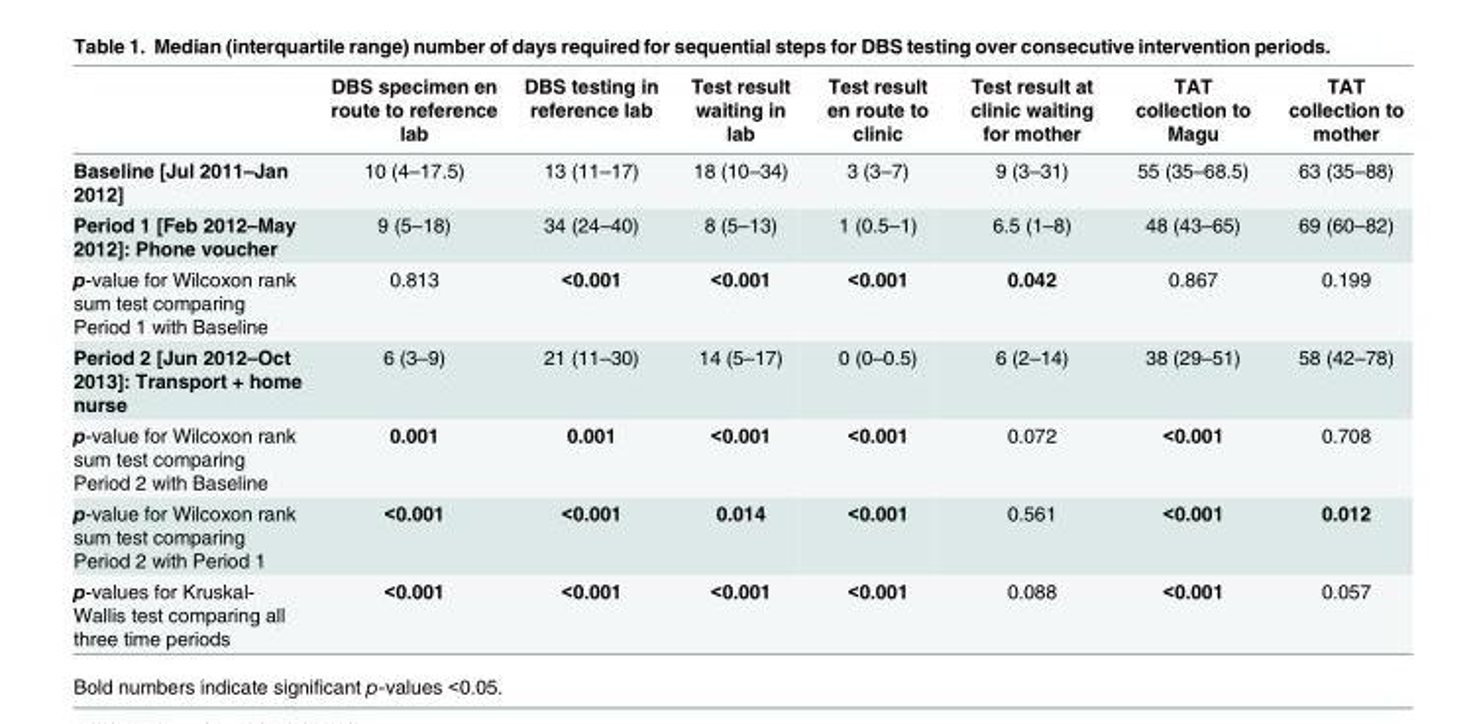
<table><thead><tr><td></td><td>DBS specimen en route to reference lab</td><td>DBS testing in reference lab</td><td>Test result waiting in lab</td><td>Test result en route to clinic</td><td>Test result at clinic waiting for mother</td><td>TAT collection to Magu</td><td>TAT collection to mother</td></tr></thead><tbody><tr><td>Baseline [Jul 2011–Jan 2012]</td><td>10 (4–17.5)</td><td>13 (11–17)</td><td>18 (10–34)</td><td>3 (3–7)</td><td>9 (3–31)</td><td>55 (35–68.5)</td><td>63 (35–88)</td></tr><tr><td>Period 1 [Feb 2012–May 2012]: Phone voucher</td><td>9 (5–18)</td><td>34 (24–40)</td><td>8 (5–13)</td><td>1 (0.5–1)</td><td>6.5 (1–8)</td><td>48 (43–65)</td><td>69 (60–82)</td></tr><tr><td>p-value for Wilcoxon rank sum test comparing Period 1 with Baseline</td><td>0.813</td><td>&lt;0.001</td><td>&lt;0.001</td><td>&lt;0.001</td><td>0.042</td><td>0.867</td><td>0.199</td></tr><tr><td>Period 2 [Jun 2012–Oct 2013]: Transport + home nurse</td><td>6 (3–9)</td><td>21 (11–30)</td><td>14 (5–17)</td><td>0 (0–0.5)</td><td>6 (2–14)</td><td>38 (29–51)</td><td>58 (42–78)</td></tr><tr><td>p-value for Wilcoxon rank sum test comparing Period 2 with Baseline</td><td>0.001</td><td>0.001</td><td>&lt;0.001</td><td>&lt;0.001</td><td>0.072</td><td>&lt;0.001</td><td>0.708</td></tr><tr><td>p-value for Wilcoxon rank sum test comparing Period 2 with Period 1</td><td>&lt;0.001</td><td>&lt;0.001</td><td>0.014</td><td>&lt;0.001</td><td>0.561</td><td>&lt;0.001</td><td>0.012</td></tr><tr><td>p-values for Kruskal- Wallis test comparing all three time periods</td><td>&lt;0.001</td><td>&lt;0.001</td><td>&lt;0.001</td><td>&lt;0.001</td><td>0.088</td><td>&lt;0.001</td><td>0.057</td></tr></tbody></table>